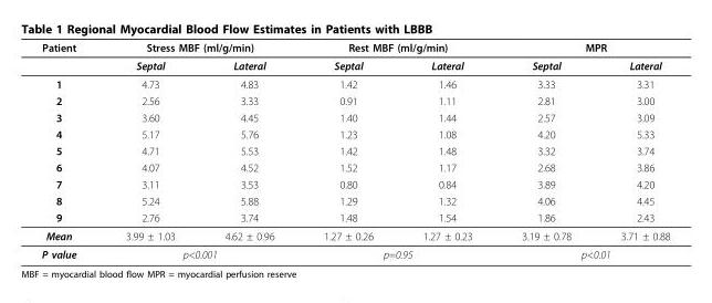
<table><thead><tr><td rowspan="2">Patient</td><td colspan="2">Stress MBF (ml/g/min)</td><td colspan="2">Rest MBF (ml/g/min)</td><td colspan="2">MPR</td></tr><tr><td>Septal</td><td>Lateral</td><td>Septal</td><td>Lateral</td><td>Septal</td><td>Lateral</td></tr></thead><tbody><tr><td>1</td><td>4.73</td><td>4.83</td><td>1.42</td><td>1.46</td><td>3.33</td><td>3.31</td></tr><tr><td>2</td><td>2.56</td><td>3.33</td><td>0.91</td><td>1.11</td><td>2.81</td><td>3.00</td></tr><tr><td>3</td><td>3.60</td><td>4.45</td><td>1.40</td><td>1.44</td><td>2.57</td><td>3.09</td></tr><tr><td>4</td><td>5.17</td><td>5.76</td><td>1.23</td><td>1.08</td><td>4.20</td><td>5.33</td></tr><tr><td>5</td><td>4.71</td><td>5.53</td><td>1.42</td><td>1.48</td><td>3.32</td><td>3.74</td></tr><tr><td>6</td><td>4.07</td><td>4.52</td><td>1.52</td><td>1.17</td><td>2.68</td><td>3.86</td></tr><tr><td>7</td><td>3.11</td><td>3.53</td><td>0.80</td><td>0.84</td><td>3.89</td><td>4.20</td></tr><tr><td>8</td><td>5.24</td><td>5.88</td><td>1.29</td><td>1.32</td><td>4.06</td><td>4.45</td></tr><tr><td>9</td><td>2.76</td><td>3.74</td><td>1.48</td><td>1.54</td><td>1.86</td><td>2.43</td></tr><tr><td>Mean</td><td>3.99 ± 1.03</td><td>4.62 ± 0.96</td><td>1.27 ± 0.26</td><td>1.27 ± 0.23</td><td>3.19 ± 0.78</td><td>3.71 ± 0.88</td></tr><tr><td>P value</td><td colspan="2">p&lt;0.001</td><td colspan="2">p=0.95</td><td colspan="2">p&lt;0.01</td></tr></tbody></table>